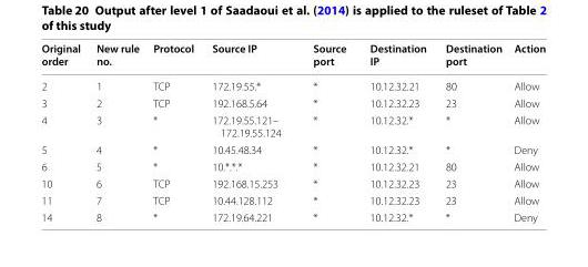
<table><thead><tr><td>Original order</td><td>New rule no.</td><td>Protocol</td><td>Source IP</td><td>Source port</td><td>Destination IP</td><td>Destination port</td><td>Action</td></tr></thead><tbody><tr><td>2</td><td>1</td><td>TCP</td><td>172.19.55.*</td><td>*</td><td>10.12.32.21</td><td>80</td><td>Allow</td></tr><tr><td>3</td><td>2</td><td>TCP</td><td>192.168.5.64</td><td>*</td><td>10.12.32.23</td><td>23</td><td>Allow</td></tr><tr><td>4</td><td>3</td><td>*</td><td>172.19.55.121– 172.19.55.124</td><td>*</td><td>10.12.32.*</td><td>*</td><td>Allow</td></tr><tr><td>5</td><td>4</td><td>*</td><td>10.45.48.34</td><td>*</td><td>10.12.32.*</td><td>*</td><td>Deny</td></tr><tr><td>6</td><td>5</td><td>*</td><td>10.*.*.*</td><td>*</td><td>10.12.32.21</td><td>80</td><td>Allow</td></tr><tr><td>10</td><td>6</td><td>TCP</td><td>192.168.15.253</td><td>*</td><td>10.12.32.23</td><td>23</td><td>Allow</td></tr><tr><td>11</td><td>7</td><td>TCP</td><td>10.44.128.112</td><td>*</td><td>10.12.32.23</td><td>23</td><td>Allow</td></tr><tr><td>14</td><td>8</td><td>*</td><td>172.19.64.221</td><td>*</td><td>10.12.32.*</td><td>*</td><td>Deny</td></tr></tbody></table>